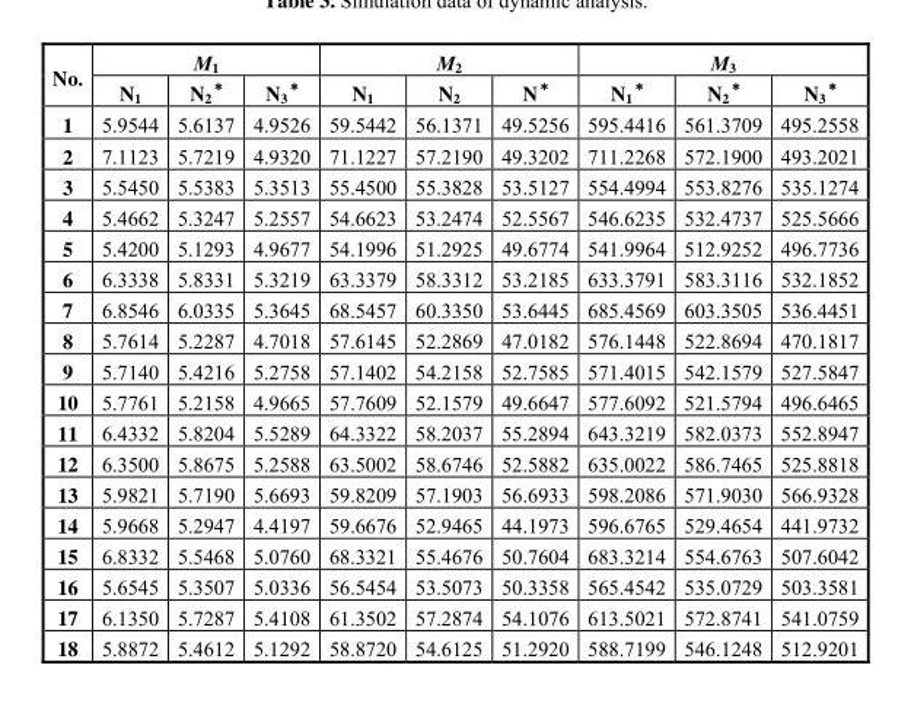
<table><thead><tr><td rowspan="2">No.</td><td colspan="3">M<sub>1</sub></td><td colspan="3">M<sub>2</sub></td><td colspan="3">M<sub>3</sub></td></tr><tr><td>N<sub>1</sub></td><td>N<sub>2</sub> ＊</td><td>N<sub>3</sub> ＊</td><td>N<sub>1</sub></td><td>N<sub>2</sub></td><td>N＊</td><td>N<sub>1</sub> ＊</td><td>N<sub>2</sub> ＊</td><td>N<sub>3</sub> ＊</td></tr></thead><tbody><tr><td>1</td><td>5.9544</td><td>5.6137</td><td>4.9526</td><td>59.5442</td><td>56.1371</td><td>49.5256</td><td>595.4416</td><td>561.3709</td><td>495.2558</td></tr><tr><td>2</td><td>7.1123</td><td>5.7219</td><td>4.9320</td><td>71.1227</td><td>57.2190</td><td>49.3202</td><td>711.2268</td><td>572.1900</td><td>493.2021</td></tr><tr><td>3</td><td>5.5450</td><td>5.5383</td><td>5.3513</td><td>55.4500</td><td>55.3828</td><td>53.5127</td><td>554.4994</td><td>553.8276</td><td>535.1274</td></tr><tr><td>4</td><td>5.4662</td><td>5.3247</td><td>5.2557</td><td>54.6623</td><td>53.2474</td><td>52.5567</td><td>546.6235</td><td>532.4737</td><td>525.5666</td></tr><tr><td>5</td><td>5.4200</td><td>5.1293</td><td>4.9677</td><td>54.1996</td><td>51.2925</td><td>49.6774</td><td>541.9964</td><td>512.9252</td><td>496.7736</td></tr><tr><td>6</td><td>6.3338</td><td>5.8331</td><td>5.3219</td><td>63.3379</td><td>58.3312</td><td>53.2185</td><td>633.3791</td><td>583.3116</td><td>532.1852</td></tr><tr><td>7</td><td>6.8546</td><td>6.0335</td><td>5.3645</td><td>68.5457</td><td>60.3350</td><td>53.6445</td><td>685.4569</td><td>603.3505</td><td>536.4451</td></tr><tr><td>8</td><td>5.7614</td><td>5.2287</td><td>4.7018</td><td>57.6145</td><td>52.2869</td><td>47.0182</td><td>576.1448</td><td>522.8694</td><td>470.1817</td></tr><tr><td>9</td><td>5.7140</td><td>5.4216</td><td>5.2758</td><td>57.1402</td><td>54.2158</td><td>52.7585</td><td>571.4015</td><td>542.1579</td><td>527.5847</td></tr><tr><td>10</td><td>5.7761</td><td>5.2158</td><td>4.9665</td><td>57.7609</td><td>52.1579</td><td>49.6647</td><td>577.6092</td><td>521.5794</td><td>496.6465</td></tr><tr><td>11</td><td>6.4332</td><td>5.8204</td><td>5.5289</td><td>64.3322</td><td>58.2037</td><td>55.2894</td><td>643.3219</td><td>582.0373</td><td>552.8947</td></tr><tr><td>12</td><td>6.3500</td><td>5.8675</td><td>5.2588</td><td>63.5002</td><td>58.6746</td><td>52.5882</td><td>635.0022</td><td>586.7465</td><td>525.8818</td></tr><tr><td>13</td><td>5.9821</td><td>5.7190</td><td>5.6693</td><td>59.8209</td><td>57.1903</td><td>56.6933</td><td>598.2086</td><td>571.9030</td><td>566.9328</td></tr><tr><td>14</td><td>5.9668</td><td>5.2947</td><td>4.4197</td><td>59.6676</td><td>52.9465</td><td>44.1973</td><td>596.6765</td><td>529.4654</td><td>441.9732</td></tr><tr><td>15</td><td>6.8332</td><td>5.5468</td><td>5.0760</td><td>68.3321</td><td>55.4676</td><td>50.7604</td><td>683.3214</td><td>554.6763</td><td>507.6042</td></tr><tr><td>16</td><td>5.6545</td><td>5.3507</td><td>5.0336</td><td>56.5454</td><td>53.5073</td><td>50.3358</td><td>565.4542</td><td>535.0729</td><td>503.3581</td></tr><tr><td>17</td><td>6.1350</td><td>5.7287</td><td>5.4108</td><td>61.3502</td><td>57.2874</td><td>54.1076</td><td>613.5021</td><td>572.8741</td><td>541.0759</td></tr><tr><td>18</td><td>5.8872</td><td>5.4612</td><td>5.1292</td><td>58.8720</td><td>54.6125</td><td>51.2920</td><td>588.7199</td><td>546.1248</td><td>512.9201</td></tr></tbody></table>